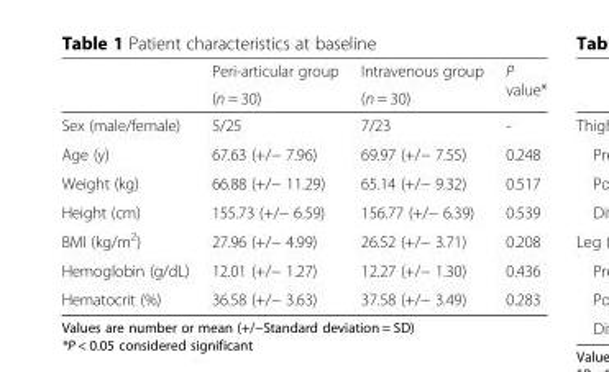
<table><thead><tr><td rowspan="2"></td><td rowspan="2">Peri-articular group (n = 30)</td><td rowspan="2">Intravenous group (n = 30)</td><td rowspan="2">P value*</td></tr><tr></tr></thead><tbody><tr><td>Sex (male/female)</td><td>5/25</td><td>7/23</td><td>-</td></tr><tr><td>Age (y)</td><td>67.63 (+/− 7.96)</td><td>69.97 (+/− 7.55)</td><td>0.248</td></tr><tr><td>Weight (kg)</td><td>66.88 (+/− 11.29)</td><td>65.14 (+/− 9.32)</td><td>0.517</td></tr><tr><td>Height (cm)</td><td>155.73 (+/− 6.59)</td><td>156.77 (+/− 6.39)</td><td>0.539</td></tr><tr><td>BMI (kg/m<sup>2</sup>)</td><td>27.96 (+/− 4.99)</td><td>26.52 (+/− 3.71)</td><td>0.208</td></tr><tr><td>Hemoglobin (g/dL)</td><td>12.01 (+/− 1.27)</td><td>12.27 (+/− 1.30)</td><td>0.436</td></tr><tr><td>Hematocrit (%)</td><td>36.58 (+/− 3.63)</td><td>37.58 (+/− 3.49)</td><td>0.283</td></tr></tbody></table>